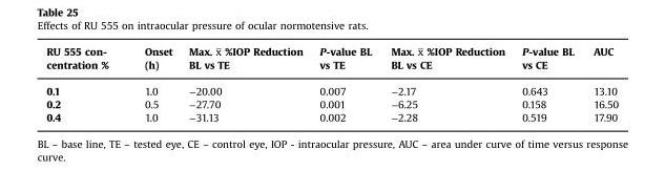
<table><thead><tr><td>RU 555 con- centration %</td><td>Onset (h)</td><td>Max. x̅ %IOP Reduction BL vs TE</td><td>P-value BL vs TE</td><td>Max. x̅ %IOP Reduction BL vs CE</td><td>P-value BL vs CE</td><td>AUC</td></tr></thead><tbody><tr><td>0.1</td><td>1.0</td><td>−20.00</td><td>0.007</td><td>−2.17</td><td>0.643</td><td>13.10</td></tr><tr><td>0.2</td><td>0.5</td><td>−27.70</td><td>0.001</td><td>−6.25</td><td>0.158</td><td>16.50</td></tr><tr><td>0.4</td><td>1.0</td><td>−31.13</td><td>0.002</td><td>−2.28</td><td>0.519</td><td>17.90</td></tr></tbody></table>